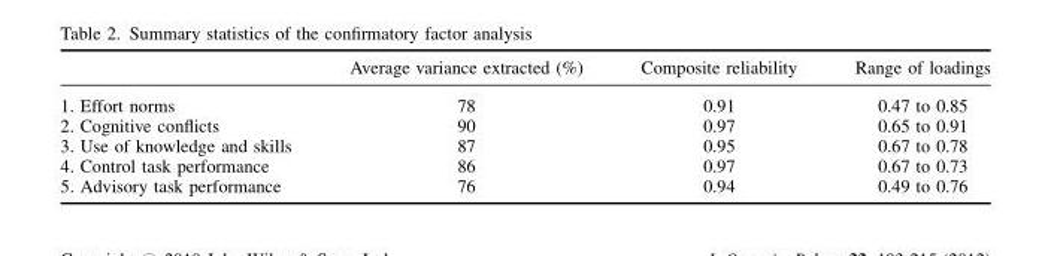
<table><thead><tr><td></td><td>Average variance extracted (%)</td><td>Composite reliability</td><td>Range of loadings</td></tr></thead><tbody><tr><td>1. Effort norms</td><td>78</td><td>0.91</td><td>0.47 to 0.85</td></tr><tr><td>2. Cognitive conflicts</td><td>90</td><td>0.97</td><td>0.65 to 0.91</td></tr><tr><td>3. Use of knowledge and skills</td><td>87</td><td>0.95</td><td>0.67 to 0.78</td></tr><tr><td>4. Control task performance</td><td>86</td><td>0.97</td><td>0.67 to 0.73</td></tr><tr><td>5. Advisory task performance</td><td>76</td><td>0.94</td><td>0.49 to 0.76</td></tr></tbody></table>